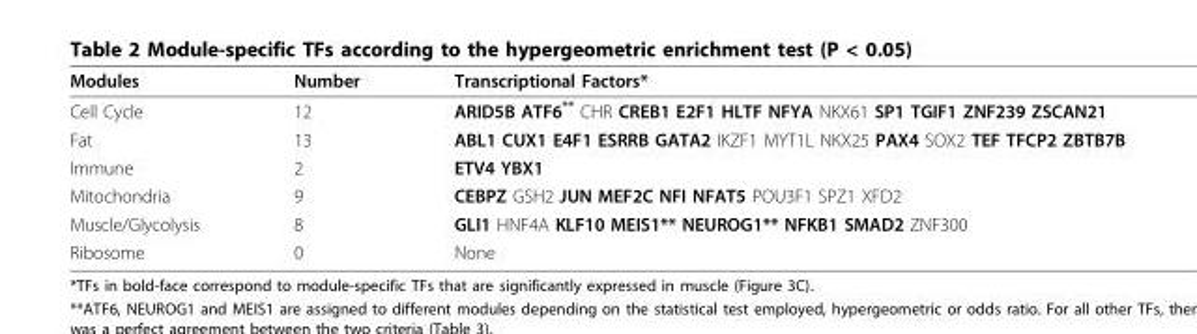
<table><thead><tr><td>Modules</td><td>Number</td><td>Transcriptional Factors*</td></tr></thead><tbody><tr><td>Cell Cycle</td><td>12</td><td>ARID5B ATF6** CHR CREB1 E2F1 HLTF NFYA NKX61 SP1 TGIF1 ZNF239 ZSCAN21</td></tr><tr><td>Fat</td><td>13</td><td>ABL1 CUX1 E4F1 ESRRB GATA2 IKZF1 MYT1L NKX25 PAX4 SOX2 TEF TFCP2 ZBTB7B</td></tr><tr><td>Immune</td><td>2</td><td>ETV4 YBX1</td></tr><tr><td>Mitochondria</td><td>9</td><td>CEBPZ GSH2 JUN MEF2C NFI NFAT5 POU3F1 SPZ1 XFD2</td></tr><tr><td>Muscle/Glycolysis</td><td>8</td><td>GLI1 HNF4A KLF10 MEIS1** NEUROG1** NFKB1 SMAD2 ZNF300</td></tr><tr><td>Ribosome</td><td>0</td><td>None</td></tr></tbody></table>